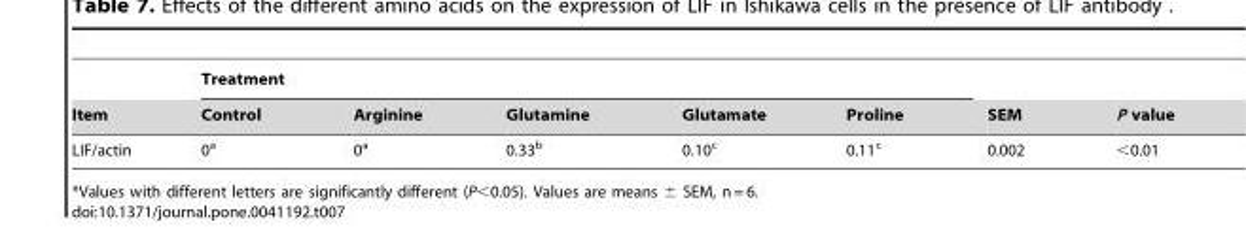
<table><thead><tr><td rowspan="2">Item</td><td colspan="5">Treatment</td><td rowspan="2">SEM</td><td rowspan="2">P value</td></tr><tr><td>Control</td><td>Arginine</td><td>Glutamine</td><td>Glutamate</td><td>Proline</td></tr></thead><tbody><tr><td>LIF/actin</td><td>0<sup>a</sup></td><td>0<sup>a</sup></td><td>0.33<sup>b</sup></td><td>0.10<sup>c</sup></td><td>0.11<sup>c</sup></td><td>0.002</td><td>&lt;0.01</td></tr></tbody></table>